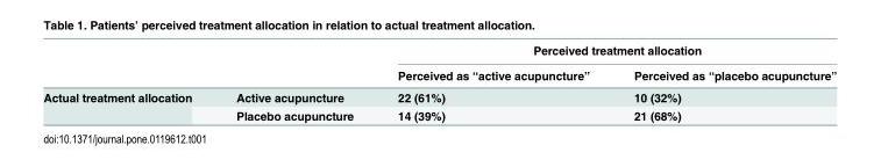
<table><thead><tr><td rowspan="2"></td><td rowspan="2"></td><td colspan="2">Perceived treatment allocation</td></tr><tr><td>Perceived as “active acupuncture”</td><td>Perceived as “placebo acupuncture”</td></tr></thead><tbody><tr><td rowspan="2">Actual treatment allocation</td><td>Active acupuncture</td><td>22 (61%)</td><td>10 (32%)</td></tr><tr><td>Placebo acupuncture</td><td>14 (39%)</td><td>21 (68%)</td></tr></tbody></table>